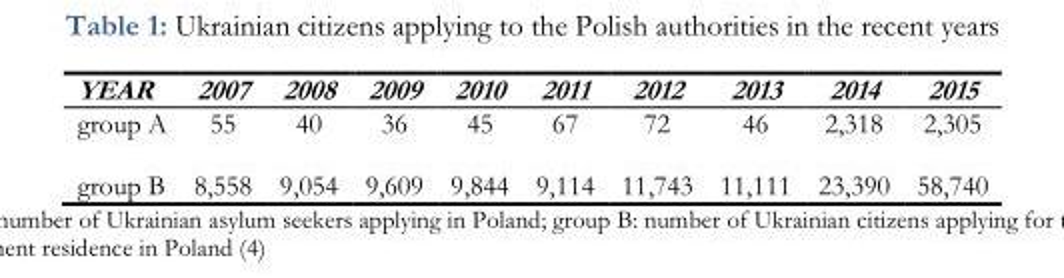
<table><thead><tr><td>YEAR</td><td>2007</td><td>2008</td><td>2009</td><td>2010</td><td>2011</td><td>2012</td><td>2013</td><td>2014</td><td>2015</td></tr></thead><tbody><tr><td>group A</td><td>55</td><td>40</td><td>36</td><td>45</td><td>67</td><td>72</td><td>46</td><td>2,318</td><td>2,305</td></tr><tr><td>group B</td><td>8,558</td><td>9,054</td><td>9,609</td><td>9,844</td><td>9,114</td><td>11,743</td><td>11,111</td><td>23,390</td><td>58,740</td></tr></tbody></table>